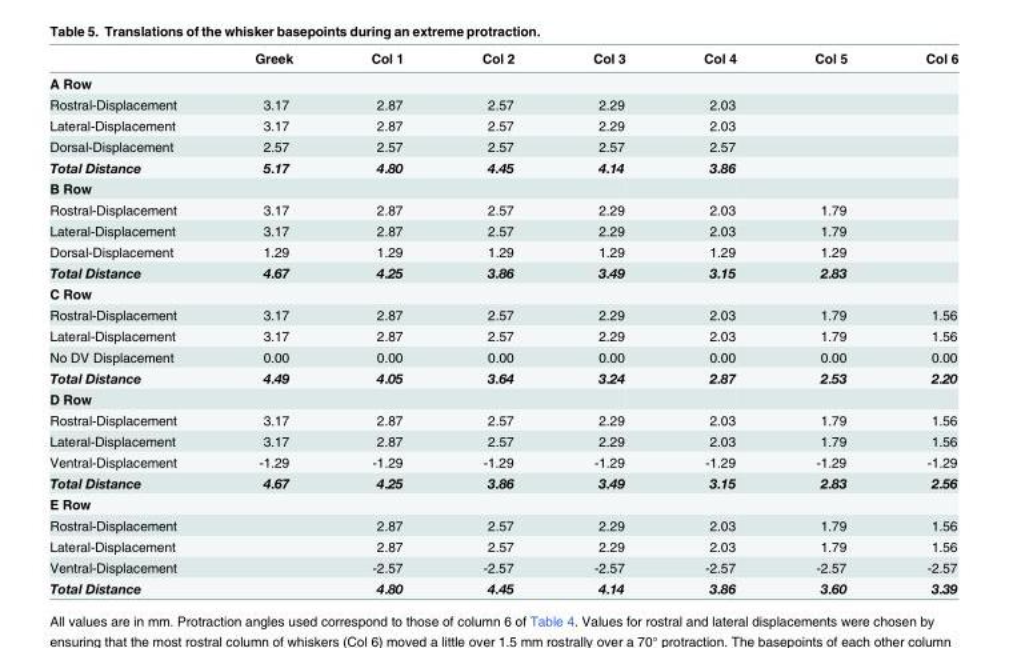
<table><thead><tr><td></td><td>Greek</td><td>Col 1</td><td>Col 2</td><td>Col 3</td><td>Col 4</td><td>Col 5</td><td>Col 6</td></tr></thead><tbody><tr><td colspan="8">A Row</td></tr><tr><td>Rostral-Displacement</td><td>3.17</td><td>2.87</td><td>2.57</td><td>2.29</td><td>2.03</td><td></td><td></td></tr><tr><td>Lateral-Displacement</td><td>3.17</td><td>2.87</td><td>2.57</td><td>2.29</td><td>2.03</td><td></td><td></td></tr><tr><td>Dorsal-Displacement</td><td>2.57</td><td>2.57</td><td>2.57</td><td>2.57</td><td>2.57</td><td></td><td></td></tr><tr><td>Total Distance</td><td>5.17</td><td>4.80</td><td>4.45</td><td>4.14</td><td>3.86</td><td></td><td></td></tr><tr><td colspan="8">B Row</td></tr><tr><td>Rostral-Displacement</td><td>3.17</td><td>2.87</td><td>2.57</td><td>2.29</td><td>2.03</td><td>1.79</td><td></td></tr><tr><td>Lateral-Displacement</td><td>3.17</td><td>2.87</td><td>2.57</td><td>2.29</td><td>2.03</td><td>1.79</td><td></td></tr><tr><td>Dorsal-Displacement</td><td>1.29</td><td>1.29</td><td>1.29</td><td>1.29</td><td>1.29</td><td>1.29</td><td></td></tr><tr><td>Total Distance</td><td>4.67</td><td>4.25</td><td>3.86</td><td>3.49</td><td>3.15</td><td>2.83</td><td></td></tr><tr><td colspan="8">C Row</td></tr><tr><td>Rostral-Displacement</td><td>3.17</td><td>2.87</td><td>2.57</td><td>2.29</td><td>2.03</td><td>1.79</td><td>1.56</td></tr><tr><td>Lateral-Displacement</td><td>3.17</td><td>2.87</td><td>2.57</td><td>2.29</td><td>2.03</td><td>1.79</td><td>1.56</td></tr><tr><td>No DV Displacement</td><td>0.00</td><td>0.00</td><td>0.00</td><td>0.00</td><td>0.00</td><td>0.00</td><td>0.00</td></tr><tr><td>Total Distance</td><td>4.49</td><td>4.05</td><td>3.64</td><td>3.24</td><td>2.87</td><td>2.53</td><td>2.20</td></tr><tr><td colspan="8">D Row</td></tr><tr><td>Rostral-Displacement</td><td>3.17</td><td>2.87</td><td>2.57</td><td>2.29</td><td>2.03</td><td>1.79</td><td>1.56</td></tr><tr><td>Lateral-Displacement</td><td>3.17</td><td>2.87</td><td>2.57</td><td>2.29</td><td>2.03</td><td>1.79</td><td>1.56</td></tr><tr><td>Ventral-Displacement</td><td>-1.29</td><td>-1.29</td><td>-1.29</td><td>-1.29</td><td>-1.29</td><td>-1.29</td><td>-1.29</td></tr><tr><td>Total Distance</td><td>4.67</td><td>4.25</td><td>3.86</td><td>3.49</td><td>3.15</td><td>2.83</td><td>2.56</td></tr><tr><td colspan="8">E Row</td></tr><tr><td>Rostral-Displacement</td><td></td><td>2.87</td><td>2.57</td><td>2.29</td><td>2.03</td><td>1.79</td><td>1.56</td></tr><tr><td>Lateral-Displacement</td><td></td><td>2.87</td><td>2.57</td><td>2.29</td><td>2.03</td><td>1.79</td><td>1.56</td></tr><tr><td>Ventral-Displacement</td><td></td><td>-2.57</td><td>-2.57</td><td>-2.57</td><td>-2.57</td><td>-2.57</td><td>-2.57</td></tr><tr><td>Total Distance</td><td></td><td>4.80</td><td>4.45</td><td>4.14</td><td>3.86</td><td>3.60</td><td>3.39</td></tr></tbody></table>